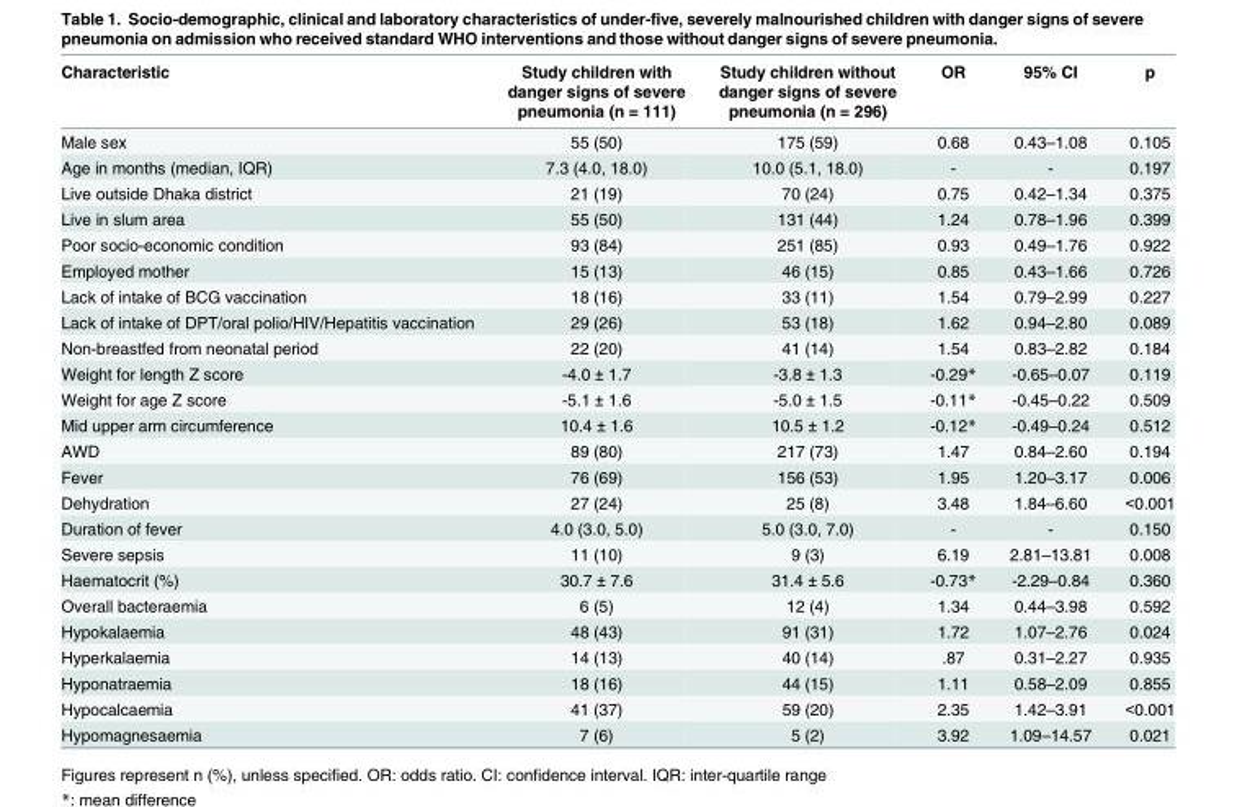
<table><thead><tr><td>Characteristic</td><td>Study children with danger signs of severe pneumonia (n = 111)</td><td>Study children without danger signs of severe pneumonia (n = 296)</td><td>OR</td><td>95% CI</td><td>p</td></tr></thead><tbody><tr><td>Male sex</td><td>55 (50)</td><td>175 (59)</td><td>0.68</td><td>0.43–1.08</td><td>0.105</td></tr><tr><td>Age in months (median, IQR)</td><td>7.3 (4.0, 18.0)</td><td>10.0 (5.1, 18.0)</td><td>-</td><td>-</td><td>0.197</td></tr><tr><td>Live outside Dhaka district</td><td>21 (19)</td><td>70 (24)</td><td>0.75</td><td>0.42–1.34</td><td>0.375</td></tr><tr><td>Live in slum area</td><td>55 (50)</td><td>131 (44)</td><td>1.24</td><td>0.78–1.96</td><td>0.399</td></tr><tr><td>Poor socio-economic condition</td><td>93 (84)</td><td>251 (85)</td><td>0.93</td><td>0.49–1.76</td><td>0.922</td></tr><tr><td>Employed mother</td><td>15 (13)</td><td>46 (15)</td><td>0.85</td><td>0.43–1.66</td><td>0.726</td></tr><tr><td>Lack of intake of BCG vaccination</td><td>18 (16)</td><td>33 (11)</td><td>1.54</td><td>0.79–2.99</td><td>0.227</td></tr><tr><td>Lack of intake of DPT/oral polio/HIV/Hepatitis vaccination</td><td>29 (26)</td><td>53 (18)</td><td>1.62</td><td>0.94–2.80</td><td>0.089</td></tr><tr><td>Non-breastfed from neonatal period</td><td>22 (20)</td><td>41 (14)</td><td>1.54</td><td>0.83–2.82</td><td>0.184</td></tr><tr><td>Weight for length Z score</td><td>-4.0 ± 1.7</td><td>-3.8 ± 1.3</td><td>-0.29*</td><td>-0.65–0.07</td><td>0.119</td></tr><tr><td>Weight for age Z score</td><td>-5.1 ± 1.6</td><td>-5.0 ± 1.5</td><td>-0.11*</td><td>-0.45–0.22</td><td>0.509</td></tr><tr><td>Mid upper arm circumference</td><td>10.4 ± 1.6</td><td>10.5 ± 1.2</td><td>-0.12*</td><td>-0.49–0.24</td><td>0.512</td></tr><tr><td>AWD</td><td>89 (80)</td><td>217 (73)</td><td>1.47</td><td>0.84–2.60</td><td>0.194</td></tr><tr><td>Fever</td><td>76 (69)</td><td>156 (53)</td><td>1.95</td><td>1.20–3.17</td><td>0.006</td></tr><tr><td>Dehydration</td><td>27 (24)</td><td>25 (8)</td><td>3.48</td><td>1.84–6.60</td><td>&lt;0.001</td></tr><tr><td>Duration of fever</td><td>4.0 (3.0, 5.0)</td><td>5.0 (3.0, 7.0)</td><td>-</td><td>-</td><td>0.150</td></tr><tr><td>Severe sepsis</td><td>11 (10)</td><td>9 (3)</td><td>6.19</td><td>2.81–13.81</td><td>0.008</td></tr><tr><td>Haematocrit (%)</td><td>30.7 ± 7.6</td><td>31.4 ± 5.6</td><td>-0.73*</td><td>-2.29–0.84</td><td>0.360</td></tr><tr><td>Overall bacteraemia</td><td>6 (5)</td><td>12 (4)</td><td>1.34</td><td>0.44–3.98</td><td>0.592</td></tr><tr><td>Hypokalaemia</td><td>48 (43)</td><td>91 (31)</td><td>1.72</td><td>1.07–2.76</td><td>0.024</td></tr><tr><td>Hyperkalaemia</td><td>14 (13)</td><td>40 (14)</td><td>.87</td><td>0.31–2.27</td><td>0.935</td></tr><tr><td>Hyponatraemia</td><td>18 (16)</td><td>44 (15)</td><td>1.11</td><td>0.58–2.09</td><td>0.855</td></tr><tr><td>Hypocalcaemia</td><td>41 (37)</td><td>59 (20)</td><td>2.35</td><td>1.42–3.91</td><td>&lt;0.001</td></tr><tr><td>Hypomagnesaemia</td><td>7 (6)</td><td>5 (2)</td><td>3.92</td><td>1.09–14.57</td><td>0.021</td></tr></tbody></table>